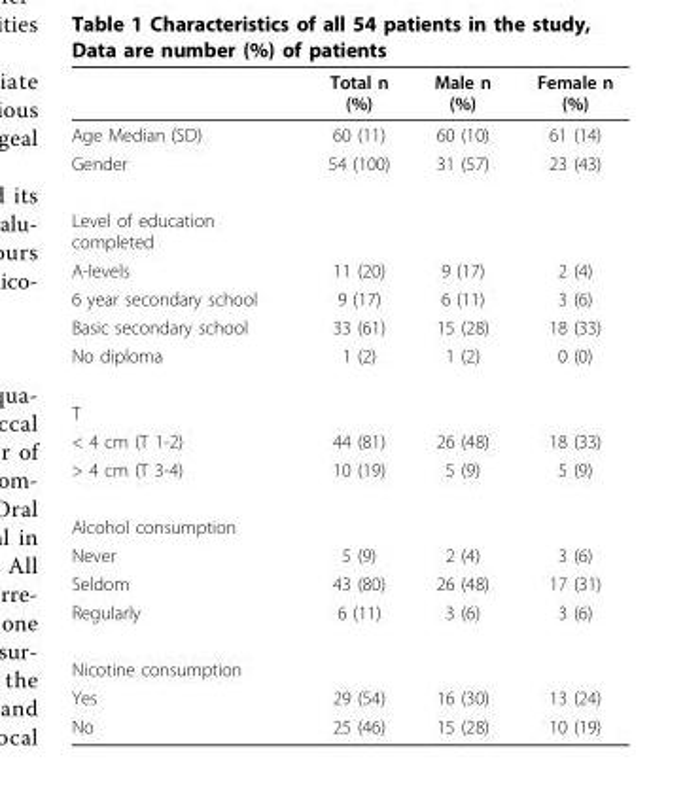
<table><thead><tr><td></td><td>Total n (%)</td><td>Male n (%)</td><td>Female n (%)</td></tr></thead><tbody><tr><td>Age Median (SD)</td><td>60 (11)</td><td>60 (10)</td><td>61 (14)</td></tr><tr><td>Gender</td><td>54 (100)</td><td>31 (57)</td><td>23 (43)</td></tr><tr><td colspan="4">Level of education completed</td></tr><tr><td>A-levels</td><td>11 (20)</td><td>9 (17)</td><td>2 (4)</td></tr><tr><td>6 year secondary school</td><td>9 (17)</td><td>6 (11)</td><td>3 (6)</td></tr><tr><td>Basic secondary school</td><td>33 (61)</td><td>15 (28)</td><td>18 (33)</td></tr><tr><td>No diploma</td><td>1 (2)</td><td>1 (2)</td><td>0 (0)</td></tr><tr><td colspan="4">T</td></tr><tr><td>&lt; 4 cm (T 1-2)</td><td>44 (81)</td><td>26 (48)</td><td>18 (33)</td></tr><tr><td>&gt; 4 cm (T 3-4)</td><td>10 (19)</td><td>5 (9)</td><td>5 (9)</td></tr><tr><td colspan="4">Alcohol consumption</td></tr><tr><td>Never</td><td>5 (9)</td><td>2 (4)</td><td>3 (6)</td></tr><tr><td>Seldom</td><td>43 (80)</td><td>26 (48)</td><td>17 (31)</td></tr><tr><td>Regularly</td><td>6 (11)</td><td>3 (6)</td><td>3 (6)</td></tr><tr><td colspan="4">Nicotine consumption</td></tr><tr><td>Yes</td><td>29 (54)</td><td>16 (30)</td><td>13 (24)</td></tr><tr><td>No</td><td>25 (46)</td><td>15 (28)</td><td>10 (19)</td></tr></tbody></table>